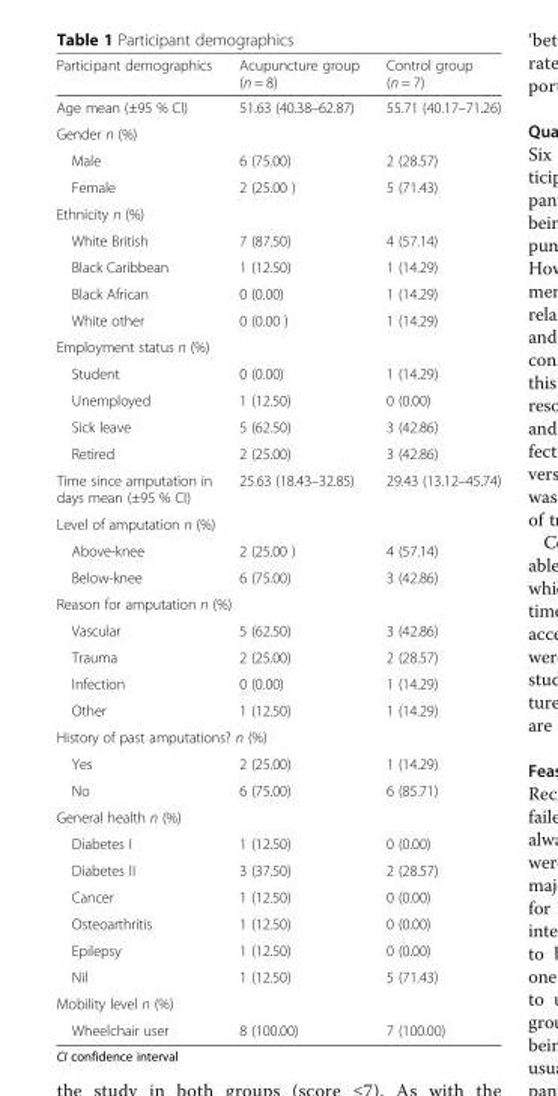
<table><thead><tr><td>Participant demographics</td><td>Acupuncture group (n = 8)</td><td>Control group (n = 7)</td></tr></thead><tbody><tr><td>Age mean (±95 % CI)</td><td>51.63 (40.38–62.87)</td><td>55.71 (40.17–71.26)</td></tr><tr><td colspan="3">Gender n (%)</td></tr><tr><td>Male</td><td>6 (75.00)</td><td>2 (28.57)</td></tr><tr><td>Female</td><td>2 (25.00 )</td><td>5 (71.43)</td></tr><tr><td colspan="3">Ethnicity n (%)</td></tr><tr><td>White British</td><td>7 (87.50)</td><td>4 (57.14)</td></tr><tr><td>Black Caribbean</td><td>1 (12.50)</td><td>1 (14.29)</td></tr><tr><td>Black African</td><td>0 (0.00)</td><td>1 (14.29)</td></tr><tr><td>White other</td><td>0 (0.00 )</td><td>1 (14.29)</td></tr><tr><td colspan="3">Employment status n (%)</td></tr><tr><td>Student</td><td>0 (0.00)</td><td>1 (14.29)</td></tr><tr><td>Unemployed</td><td>1 (12.50)</td><td>0 (0.00)</td></tr><tr><td>Sick leave</td><td>5 (62.50)</td><td>3 (42.86)</td></tr><tr><td>Retired</td><td>2 (25.00)</td><td>3 (42.86)</td></tr><tr><td>Time since amputation in days mean (±95 % CI)</td><td>25.63 (18.43–32.85)</td><td>29.43 (13.12–45.74)</td></tr><tr><td colspan="3">Level of amputation n (%)</td></tr><tr><td>Above-knee</td><td>2 (25.00 )</td><td>4 (57.14)</td></tr><tr><td>Below-knee</td><td>6 (75.00)</td><td>3 (42.86)</td></tr><tr><td colspan="3">Reason for amputation n (%)</td></tr><tr><td>Vascular</td><td>5 (62.50)</td><td>3 (42.86)</td></tr><tr><td>Trauma</td><td>2 (25.00)</td><td>2 (28.57)</td></tr><tr><td>Infection</td><td>0 (0.00)</td><td>1 (14.29)</td></tr><tr><td>Other</td><td>1 (12.50)</td><td>1 (14.29)</td></tr><tr><td colspan="3">History of past amputations? n (%)</td></tr><tr><td>Yes</td><td>2 (25.00)</td><td>1 (14.29)</td></tr><tr><td>No</td><td>6 (75.00)</td><td>6 (85.71)</td></tr><tr><td colspan="3">General health n (%)</td></tr><tr><td>Diabetes I</td><td>1 (12.50)</td><td>0 (0.00)</td></tr><tr><td>Diabetes II</td><td>3 (37.50)</td><td>2 (28.57)</td></tr><tr><td>Cancer</td><td>1 (12.50)</td><td>0 (0.00)</td></tr><tr><td>Osteoarthritis</td><td>1 (12.50)</td><td>0 (0.00)</td></tr><tr><td>Epilepsy</td><td>1 (12.50)</td><td>0 (0.00)</td></tr><tr><td>Nil</td><td>1 (12.50)</td><td>5 (71.43)</td></tr><tr><td colspan="3">Mobility level n (%)</td></tr><tr><td>Wheelchair user</td><td>8 (100.00)</td><td>7 (100.00)</td></tr></tbody></table>